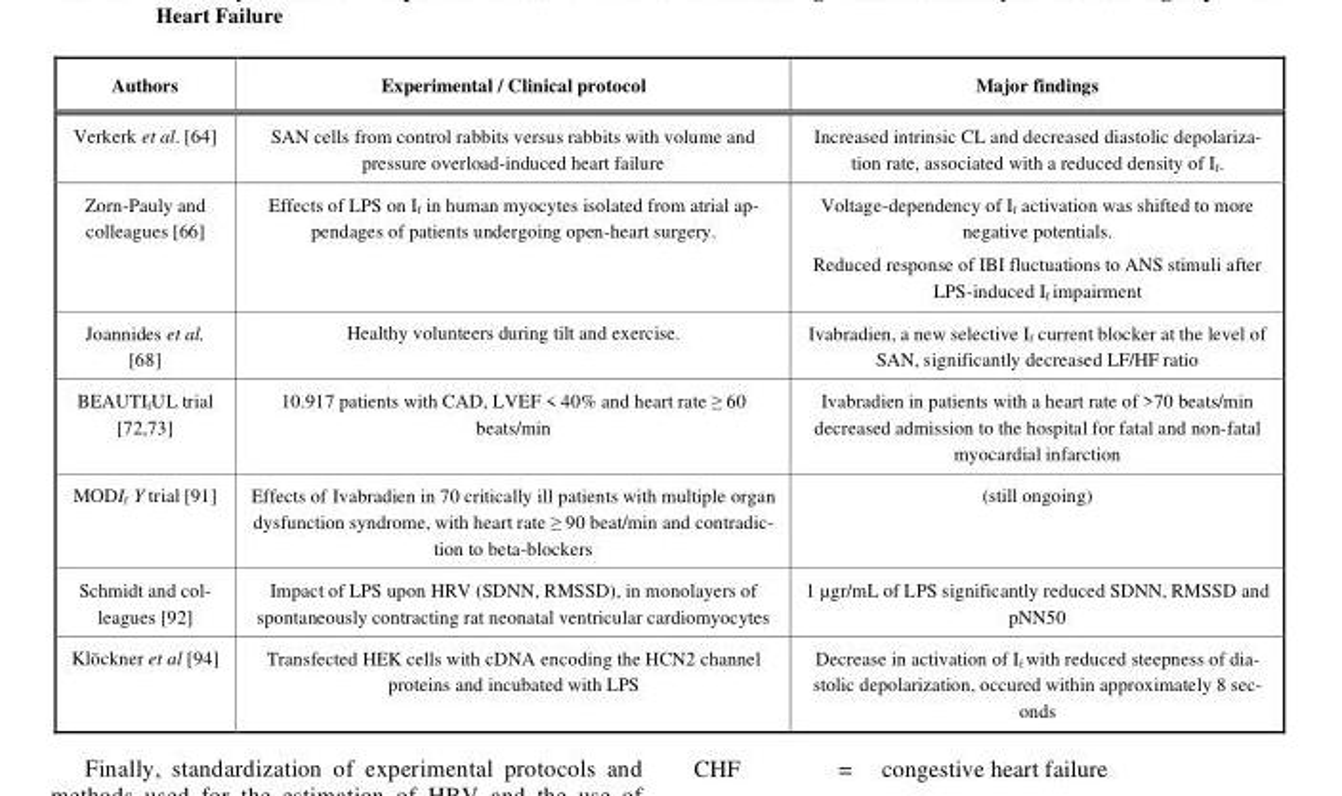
<table><thead><tr><td>Authors</td><td>Experimental / Clinical protocol</td><td>Major findings</td></tr></thead><tbody><tr><td>Verkerk et al. [64]</td><td>SAN cells from control rabbits versus rabbits with volume and pressure overload-induced heart failure</td><td>Increased intrinsic CL and decreased diastolic depolariza- tion rate, associated with a reduced density of If.</td></tr><tr><td>Zorn-Pauly and colleagues [66]</td><td>Effects of LPS on If in human myocytes isolated from atrial ap- pendages of patients undergoing open-heart surgery.</td><td>Voltage-dependency of I<sub>f</sub> activation was shifted to more negative potentials. Reduced response of IBI fluctuations to ANS stimuli after LPS-induced I<sub>f</sub> impairment</td></tr><tr><td>Joannides et al. [68]</td><td>Healthy volunteers during tilt and exercise.</td><td>Ivabradien, a new selective I<sub>f</sub> current blocker at the level of SAN, significantly decreased LF/HF ratio</td></tr><tr><td>BEAUTI<sub>f</sub>UL trial [72,73]</td><td>10.917 patients with CAD, LVEF &lt; 40% and heart rate ≥ 60 beats/min</td><td>Ivabradien in patients with a heart rate of &gt;70 beats/min decreased admission to the hospital for fatal and non-fatal myocardial infarction</td></tr><tr><td>MODI<sub>f</sub> Y trial [91]</td><td>Effects of Ivabradien in 70 critically ill patients with multiple organ dysfunction syndrome, with heart rate ≥ 90 beat/min and contradic- tion to beta-blockers</td><td>(still ongoing)</td></tr><tr><td>Schmidt and col- leagues [92]</td><td>Impact of LPS upon HRV (SDNN, RMSSD), in monolayers of spontaneously contracting rat neonatal ventricular cardiomyocytes</td><td>1 µgr/mL of LPS significantly reduced SDNN, RMSSD and pNN50</td></tr><tr><td>Klöckner et al [94]</td><td>Transfected HEK cells with cDNA encoding the HCN2 channel proteins and incubated with LPS</td><td>Decrease in activation of If with reduced steepness of dia- stolic depolarization, occured within approximately 8 sec- onds</td></tr></tbody></table>